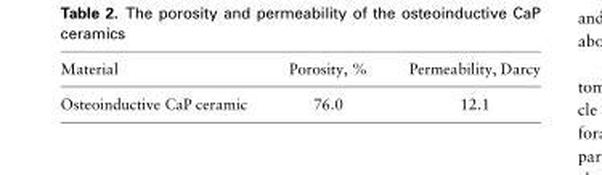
<table><thead><tr><td>Material</td><td>Porosity, %</td><td>Permeability, Darcy</td></tr></thead><tbody><tr><td>Osteoinductive CaP ceramic</td><td>76.0</td><td>12.1</td></tr></tbody></table>